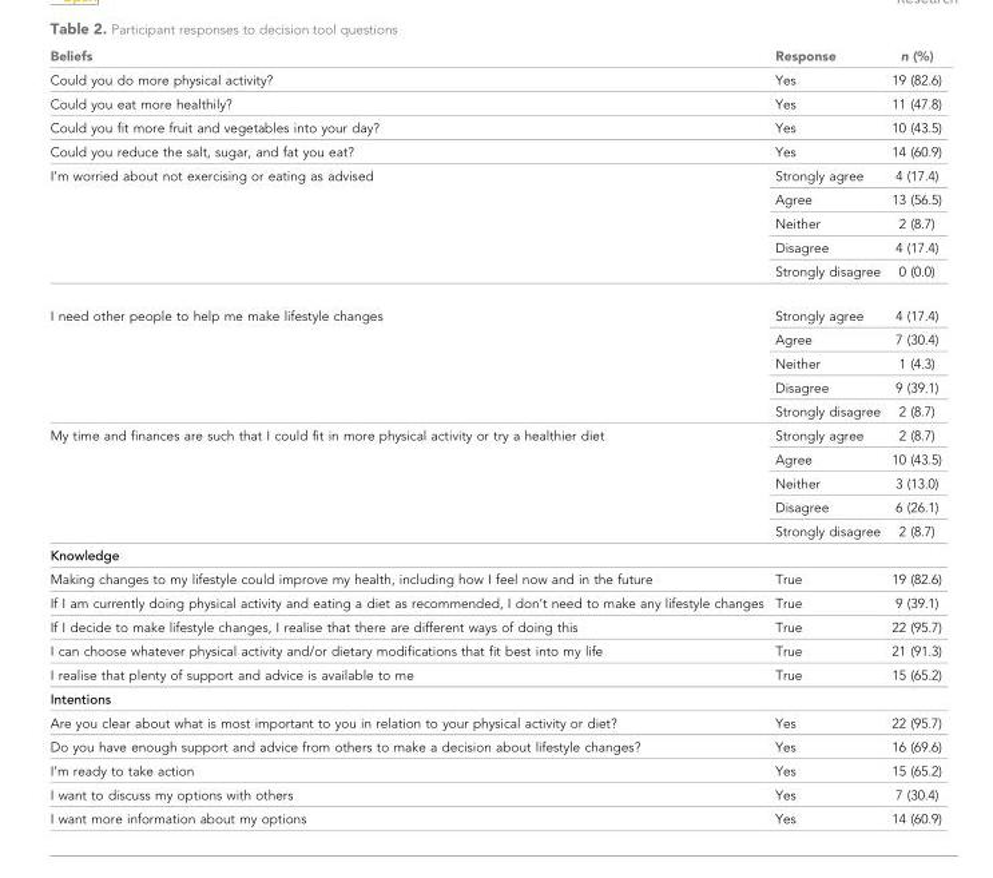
<table><thead><tr><td>Beliefs</td><td>Response</td><td>n (%)</td></tr></thead><tbody><tr><td>Could you do more physical activity?</td><td>Yes</td><td>19 (82.6)</td></tr><tr><td>Could you eat more healthily?</td><td>Yes</td><td>11 (47.8)</td></tr><tr><td>Could you fit more fruit and vegetables into your day?</td><td>Yes</td><td>10 (43.5)</td></tr><tr><td>Could you reduce the salt, sugar, and fat you eat?</td><td>Yes</td><td>14 (60.9)</td></tr><tr><td rowspan="5">I’m worried about not exercising or eating as advised</td><td>Strongly agree</td><td>4 (17.4)</td></tr><tr><td>Agree</td><td>13 (56.5)</td></tr><tr><td>Neither</td><td>2 (8.7)</td></tr><tr><td>Disagree</td><td>4 (17.4)</td></tr><tr><td>Strongly disagree</td><td>0 (0.0)</td></tr><tr><td rowspan="5">I need other people to help me make lifestyle changes</td><td>Strongly agree</td><td>4 (17.4)</td></tr><tr><td>Agree</td><td>7 (30.4)</td></tr><tr><td>Neither</td><td>1 (4.3)</td></tr><tr><td>Disagree</td><td>9 (39.1)</td></tr><tr><td>Strongly disagree</td><td>2 (8.7)</td></tr><tr><td rowspan="5">My time and finances are such that I could fit in more physical activity or try a healthier diet</td><td>Strongly agree</td><td>2 (8.7)</td></tr><tr><td>Agree</td><td>10 (43.5)</td></tr><tr><td>Neither</td><td>3 (13.0)</td></tr><tr><td>Disagree</td><td>6 (26.1)</td></tr><tr><td>Strongly disagree</td><td>2 (8.7)</td></tr><tr><td colspan="3">Knowledge</td></tr><tr><td>Making changes to my lifestyle could improve my health, including how I feel now and in the future</td><td>True</td><td>19 (82.6)</td></tr><tr><td>If I am currently doing physical activity and eating a diet as recommended, I don’t need to make any lifestyle changes</td><td>True</td><td>9 (39.1)</td></tr><tr><td>If I decide to make lifestyle changes, I realise that there are different ways of doing this</td><td>True</td><td>22 (95.7)</td></tr><tr><td>I can choose whatever physical activity and/or dietary modifications that fit best into my life</td><td>True</td><td>21 (91.3)</td></tr><tr><td>I realise that plenty of support and advice is available to me</td><td>True</td><td>15 (65.2)</td></tr><tr><td colspan="3">Intentions</td></tr><tr><td>Are you clear about what is most important to you in relation to your physical activity or diet?</td><td>Yes</td><td>22 (95.7)</td></tr><tr><td>Do you have enough support and advice from others to make a decision about lifestyle changes?</td><td>Yes</td><td>16 (69.6)</td></tr><tr><td>I’m ready to take action</td><td>Yes</td><td>15 (65.2)</td></tr><tr><td>I want to discuss my options with others</td><td>Yes</td><td>7 (30.4)</td></tr><tr><td>I want more information about my options</td><td>Yes</td><td>14 (60.9)</td></tr></tbody></table>